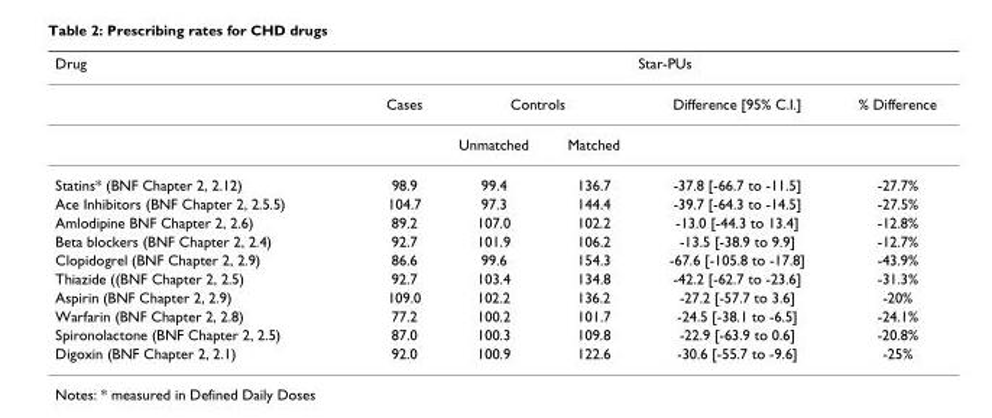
<table><thead><tr><td rowspan="3">Drug</td><td colspan="5">Star-PUs</td></tr><tr><td rowspan="2">Cases</td><td colspan="2">Controls</td><td rowspan="2">Difference [95% C.I.]</td><td rowspan="2">% Difference</td></tr><tr><td>Unmatched</td><td>Matched</td></tr></thead><tbody><tr><td>Statins* (BNF Chapter 2, 2.12)</td><td>98.9</td><td>99.4</td><td>136.7</td><td>-37.8 [-66.7 to -11.5]</td><td>-27.7%</td></tr><tr><td>Ace Inhibitors (BNF Chapter 2, 2.5.5)</td><td>104.7</td><td>97.3</td><td>144.4</td><td>-39.7 [-64.3 to -14.5]</td><td>-27.5%</td></tr><tr><td>Amlodipine BNF Chapter 2, 2.6)</td><td>89.2</td><td>107.0</td><td>102.2</td><td>-13.0 [-44.3 to 13.4]</td><td>-12.8%</td></tr><tr><td>Beta blockers (BNF Chapter 2, 2.4)</td><td>92.7</td><td>101.9</td><td>106.2</td><td>-13.5 [-38.9 to 9.9]</td><td>-12.7%</td></tr><tr><td>Clopidogrel (BNF Chapter 2, 2.9)</td><td>86.6</td><td>99.6</td><td>154.3</td><td>-67.6 [-105.8 to -17.8]</td><td>-43.9%</td></tr><tr><td>Thiazide ((BNF Chapter 2, 2.5)</td><td>92.7</td><td>103.4</td><td>134.8</td><td>-42.2 [-62.7 to -23.6]</td><td>-31.3%</td></tr><tr><td>Aspirin (BNF Chapter 2, 2.9)</td><td>109.0</td><td>102.2</td><td>136.2</td><td>-27.2 [-57.7 to 3.6]</td><td>-20%</td></tr><tr><td>Warfarin (BNF Chapter 2, 2.8)</td><td>77.2</td><td>100.2</td><td>101.7</td><td>-24.5 [-38.1 to -6.5]</td><td>-24.1%</td></tr><tr><td>Spironolactone (BNF Chapter 2, 2.5)</td><td>87.0</td><td>100.3</td><td>109.8</td><td>-22.9 [-63.9 to 0.6]</td><td>-20.8%</td></tr><tr><td>Digoxin (BNF Chapter 2, 2.1)</td><td>92.0</td><td>100.9</td><td>122.6</td><td>-30.6 [-55.7 to -9.6]</td><td>-25%</td></tr></tbody></table>